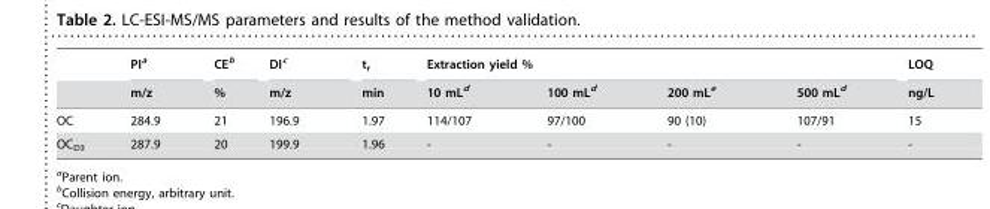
<table><thead><tr><td rowspan="2"></td><td rowspan="2">PI<sup>a</sup> m/z</td><td rowspan="2">CE<sup>b</sup> %</td><td rowspan="2">DI<sup>c</sup> m/z</td><td rowspan="2">t<sub>r</sub> min</td><td colspan="4">Extraction yield %</td><td rowspan="2">LOQ ng/L</td></tr><tr><td>10 mL<sup>d</sup></td><td>100 mL<sup>d</sup></td><td>200 mL<sup>e</sup></td><td>500 mL<sup>d</sup></td></tr></thead><tbody><tr><td>OC</td><td>284.9</td><td>21</td><td>196.9</td><td>1.97</td><td>114/107</td><td>97/100</td><td>90 (10)</td><td>107/91</td><td>15</td></tr><tr><td>OC<sub>D3</sub></td><td>287.9</td><td>20</td><td>199.9</td><td>1.96</td><td>-</td><td>-</td><td>-</td><td>-</td><td>-</td></tr></tbody></table>